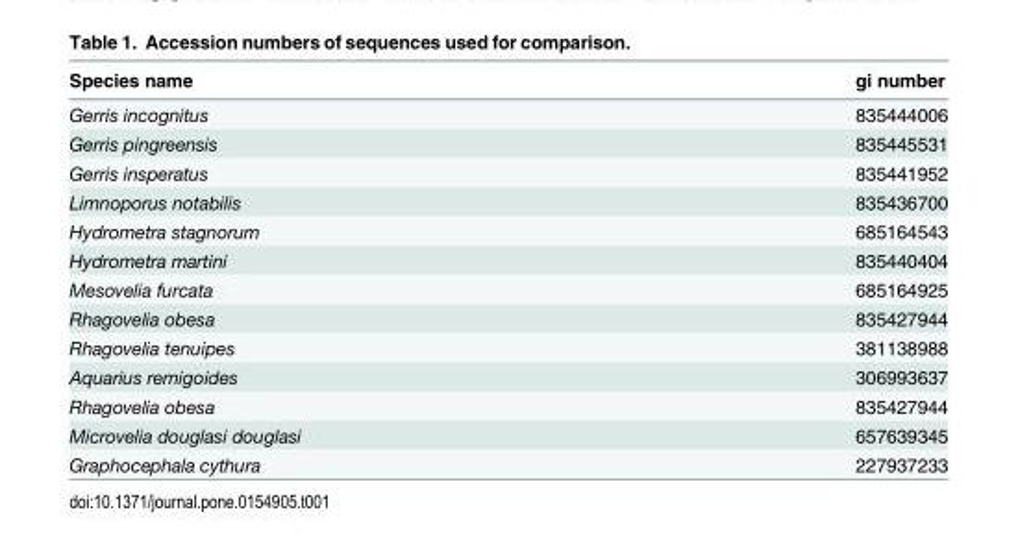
<table><thead><tr><td>Species name</td><td>gi number</td></tr></thead><tbody><tr><td>Gerris incognitus</td><td>835444006</td></tr><tr><td>Gerris pingreensis</td><td>835445531</td></tr><tr><td>Gerris insperatus</td><td>835441952</td></tr><tr><td>Limnoporus notabilis</td><td>835436700</td></tr><tr><td>Hydrometra stagnorum</td><td>685164543</td></tr><tr><td>Hydrometra martini</td><td>835440404</td></tr><tr><td>Mesovelia furcata</td><td>685164925</td></tr><tr><td>Rhagovelia obesa</td><td>835427944</td></tr><tr><td>Rhagovelia tenuipes</td><td>381138988</td></tr><tr><td>Aquarius remigoides</td><td>306993637</td></tr><tr><td>Rhagovelia obesa</td><td>835427944</td></tr><tr><td>Microvelia douglasi douglasi</td><td>657639345</td></tr><tr><td>Graphocephala cythura</td><td>227937233</td></tr></tbody></table>